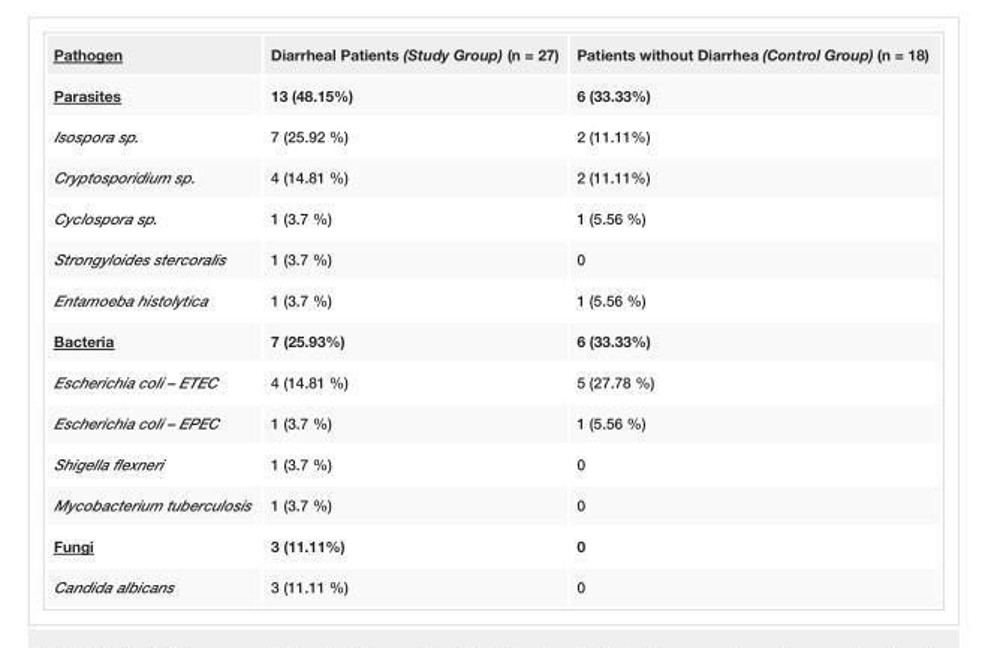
<table><tbody><tr><td>Pathogen</td><td>Diarrheal Patients (Study Group) (n = 27)</td><td>Patients without Diarrhea (Control Group) (n = 18)</td></tr><tr><td>Parasites</td><td>13 (48.15%)</td><td>6 (33.33%)</td></tr><tr><td>Isospora sp.</td><td>7 (25.92 %)</td><td>2 (11.11%)</td></tr><tr><td>Cryptosporidium sp.</td><td>4 (14.81 %)</td><td>2 (11.11%)</td></tr><tr><td>Cyclospora sp.</td><td>1 (3.7 %)</td><td>1 (5.56 %)</td></tr><tr><td>Strongyloides stercoralis</td><td>1 (3.7 %)</td><td>0</td></tr><tr><td>Entamoeba histolytica</td><td>1 (3.7 %)</td><td>1 (5.56 %)</td></tr><tr><td>Bacteria</td><td>7 (25.93%)</td><td>6 (33.33%)</td></tr><tr><td>Escherichia coli – ETEC</td><td>4 (14.81 %)</td><td>5 (27.78 %)</td></tr><tr><td>Escherichia coli – EPEC</td><td>1 (3.7 %)</td><td>1 (5.56 %)</td></tr><tr><td>Shigella flexneri</td><td>1 (3.7 %)</td><td>0</td></tr><tr><td>Mycobacterium tuberculosis</td><td>1 (3.7 %)</td><td>0</td></tr><tr><td>Fungi</td><td>3 (11.11%)</td><td>0</td></tr><tr><td>Candida albicans</td><td>3 (11.11 %)</td><td>0</td></tr></tbody></table>